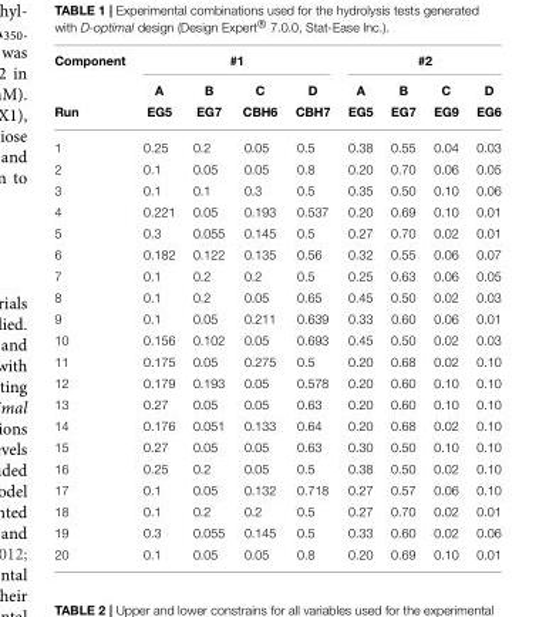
<table><thead><tr><td rowspan="3">Component Run</td><td colspan="4">#1</td><td colspan="4">#2</td></tr><tr><td rowspan="2">A EG5</td><td rowspan="2">B EG7</td><td rowspan="2">C CBH6</td><td rowspan="2">D CBH7</td><td rowspan="2">A EG5</td><td rowspan="2">B EG7</td><td rowspan="2">C EG9</td><td rowspan="2">D EG6</td></tr><tr></tr></thead><tbody><tr><td>1</td><td>0.25</td><td>0.2</td><td>0.05</td><td>0.5</td><td>0.38</td><td>0.55</td><td>0.04</td><td>0.03</td></tr><tr><td>2</td><td>0.1</td><td>0.05</td><td>0.05</td><td>0.8</td><td>0.20</td><td>0.70</td><td>0.06</td><td>0.05</td></tr><tr><td>3</td><td>0.1</td><td>0.1</td><td>0.3</td><td>0.5</td><td>0.35</td><td>0.50</td><td>0.10</td><td>0.06</td></tr><tr><td>4</td><td>0.221</td><td>0.05</td><td>0.193</td><td>0.537</td><td>0.20</td><td>0.69</td><td>0.10</td><td>0.01</td></tr><tr><td>5</td><td>0.3</td><td>0.055</td><td>0.145</td><td>0.5</td><td>0.27</td><td>0.70</td><td>0.02</td><td>0.01</td></tr><tr><td>6</td><td>0.182</td><td>0.122</td><td>0.135</td><td>0.56</td><td>0.32</td><td>0.55</td><td>0.06</td><td>0.07</td></tr><tr><td>7</td><td>0.1</td><td>0.2</td><td>0.2</td><td>0.5</td><td>0.25</td><td>0.63</td><td>0.06</td><td>0.05</td></tr><tr><td>8</td><td>0.1</td><td>0.2</td><td>0.05</td><td>0.65</td><td>0.45</td><td>0.50</td><td>0.02</td><td>0.03</td></tr><tr><td>9</td><td>0.1</td><td>0.05</td><td>0.211</td><td>0.639</td><td>0.33</td><td>0.60</td><td>0.06</td><td>0.01</td></tr><tr><td>10</td><td>0.156</td><td>0.102</td><td>0.05</td><td>0.693</td><td>0.45</td><td>0.50</td><td>0.02</td><td>0.03</td></tr><tr><td>11</td><td>0.175</td><td>0.05</td><td>0.275</td><td>0.5</td><td>0.20</td><td>0.68</td><td>0.02</td><td>0.10</td></tr><tr><td>12</td><td>0.179</td><td>0.193</td><td>0.05</td><td>0.578</td><td>0.20</td><td>0.60</td><td>0.10</td><td>0.10</td></tr><tr><td>13</td><td>0.27</td><td>0.05</td><td>0.05</td><td>0.63</td><td>0.20</td><td>0.60</td><td>0.10</td><td>0.10</td></tr><tr><td>14</td><td>0.176</td><td>0.051</td><td>0.133</td><td>0.64</td><td>0.20</td><td>0.68</td><td>0.02</td><td>0.10</td></tr><tr><td>15</td><td>0.27</td><td>0.05</td><td>0.05</td><td>0.63</td><td>0.30</td><td>0.50</td><td>0.10</td><td>0.10</td></tr><tr><td>16</td><td>0.25</td><td>0.2</td><td>0.05</td><td>0.5</td><td>0.38</td><td>0.50</td><td>0.02</td><td>0.10</td></tr><tr><td>17</td><td>0.1</td><td>0.05</td><td>0.132</td><td>0.718</td><td>0.27</td><td>0.57</td><td>0.06</td><td>0.10</td></tr><tr><td>18</td><td>0.1</td><td>0.2</td><td>0.2</td><td>0.5</td><td>0.27</td><td>0.70</td><td>0.02</td><td>0.01</td></tr><tr><td>19</td><td>0.3</td><td>0.055</td><td>0.145</td><td>0.5</td><td>0.33</td><td>0.60</td><td>0.02</td><td>0.06</td></tr><tr><td>20</td><td>0.1</td><td>0.05</td><td>0.05</td><td>0.8</td><td>0.20</td><td>0.69</td><td>0.10</td><td>0.01</td></tr></tbody></table>